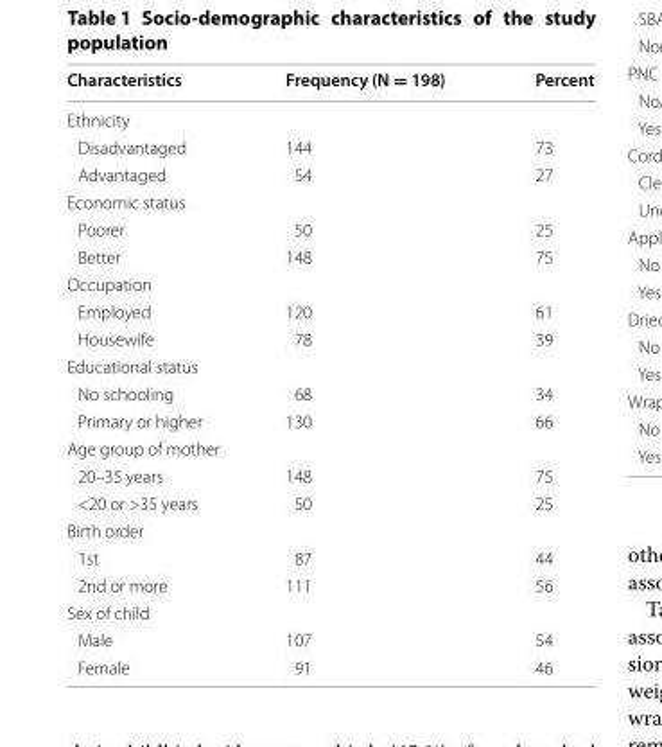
<table><thead><tr><td>Characteristics</td><td>Frequency (N = 198)</td><td>Percent</td></tr></thead><tbody><tr><td colspan="3">Ethnicity</td></tr><tr><td>Disadvantaged</td><td>144</td><td>73</td></tr><tr><td>Advantaged</td><td>54</td><td>27</td></tr><tr><td colspan="3">Economic status</td></tr><tr><td>Poorer</td><td>50</td><td>25</td></tr><tr><td>Better</td><td>148</td><td>75</td></tr><tr><td colspan="3">Occupation</td></tr><tr><td>Employed</td><td>120</td><td>61</td></tr><tr><td>Housewife</td><td>78</td><td>39</td></tr><tr><td colspan="3">Educational status</td></tr><tr><td>No schooling</td><td>68</td><td>34</td></tr><tr><td>Primary or higher</td><td>130</td><td>66</td></tr><tr><td colspan="3">Age group of mother</td></tr><tr><td>20–35 years</td><td>148</td><td>75</td></tr><tr><td>&lt;20 or &gt;35 years</td><td>50</td><td>25</td></tr><tr><td colspan="3">Birth order</td></tr><tr><td>1st</td><td>87</td><td>44</td></tr><tr><td>2nd or more</td><td>111</td><td>56</td></tr><tr><td colspan="3">Sex of child</td></tr><tr><td>Male</td><td>107</td><td>54</td></tr><tr><td>Female</td><td>91</td><td>46</td></tr></tbody></table>